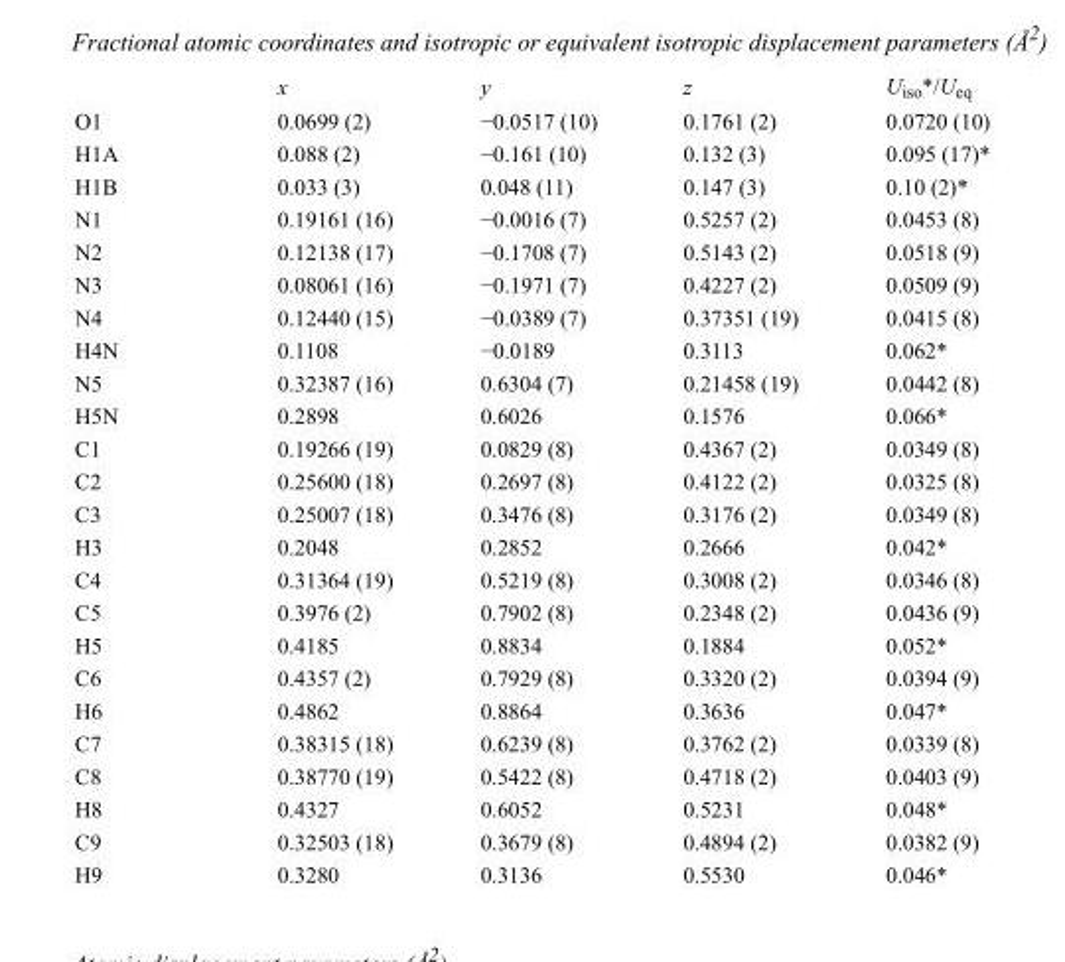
<table><thead><tr><td></td><td>x</td><td>y</td><td>z</td><td>U<sub>iso</sub>*/U<sub>eq</sub></td></tr></thead><tbody><tr><td>O1</td><td>0.0699 (2)</td><td>−0.0517 (10)</td><td>0.1761 (2)</td><td>0.0720 (10)</td></tr><tr><td>H1A</td><td>0.088 (2)</td><td>−0.161 (10)</td><td>0.132 (3)</td><td>0.095 (17)*</td></tr><tr><td>H1B</td><td>0.033 (3)</td><td>0.048 (11)</td><td>0.147 (3)</td><td>0.10 (2)*</td></tr><tr><td>N1</td><td>0.19161 (16)</td><td>−0.0016 (7)</td><td>0.5257 (2)</td><td>0.0453 (8)</td></tr><tr><td>N2</td><td>0.12138 (17)</td><td>−0.1708 (7)</td><td>0.5143 (2)</td><td>0.0518 (9)</td></tr><tr><td>N3</td><td>0.08061 (16)</td><td>−0.1971 (7)</td><td>0.4227 (2)</td><td>0.0509 (9)</td></tr><tr><td>N4</td><td>0.12440 (15)</td><td>−0.0389 (7)</td><td>0.37351 (19)</td><td>0.0415 (8)</td></tr><tr><td>H4N</td><td>0.1108</td><td>−0.0189</td><td>0.3113</td><td>0.062*</td></tr><tr><td>N5</td><td>0.32387 (16)</td><td>0.6304 (7)</td><td>0.21458 (19)</td><td>0.0442 (8)</td></tr><tr><td>H5N</td><td>0.2898</td><td>0.6026</td><td>0.1576</td><td>0.066*</td></tr><tr><td>C1</td><td>0.19266 (19)</td><td>0.0829 (8)</td><td>0.4367 (2)</td><td>0.0349 (8)</td></tr><tr><td>C2</td><td>0.25600 (18)</td><td>0.2697 (8)</td><td>0.4122 (2)</td><td>0.0325 (8)</td></tr><tr><td>C3</td><td>0.25007 (18)</td><td>0.3476 (8)</td><td>0.3176 (2)</td><td>0.0349 (8)</td></tr><tr><td>H3</td><td>0.2048</td><td>0.2852</td><td>0.2666</td><td>0.042*</td></tr><tr><td>C4</td><td>0.31364 (19)</td><td>0.5219 (8)</td><td>0.3008 (2)</td><td>0.0346 (8)</td></tr><tr><td>C5</td><td>0.3976 (2)</td><td>0.7902 (8)</td><td>0.2348 (2)</td><td>0.0436 (9)</td></tr><tr><td>H5</td><td>0.4185</td><td>0.8834</td><td>0.1884</td><td>0.052*</td></tr><tr><td>C6</td><td>0.4357 (2)</td><td>0.7929 (8)</td><td>0.3320 (2)</td><td>0.0394 (9)</td></tr><tr><td>H6</td><td>0.4862</td><td>0.8864</td><td>0.3636</td><td>0.047*</td></tr><tr><td>C7</td><td>0.38315 (18)</td><td>0.6239 (8)</td><td>0.3762 (2)</td><td>0.0339 (8)</td></tr><tr><td>C8</td><td>0.38770 (19)</td><td>0.5422 (8)</td><td>0.4718 (2)</td><td>0.0403 (9)</td></tr><tr><td>H8</td><td>0.4327</td><td>0.6052</td><td>0.5231</td><td>0.048*</td></tr><tr><td>C9</td><td>0.32503 (18)</td><td>0.3679 (8)</td><td>0.4894 (2)</td><td>0.0382 (9)</td></tr><tr><td>H9</td><td>0.3280</td><td>0.3136</td><td>0.5530</td><td>0.046*</td></tr></tbody></table>